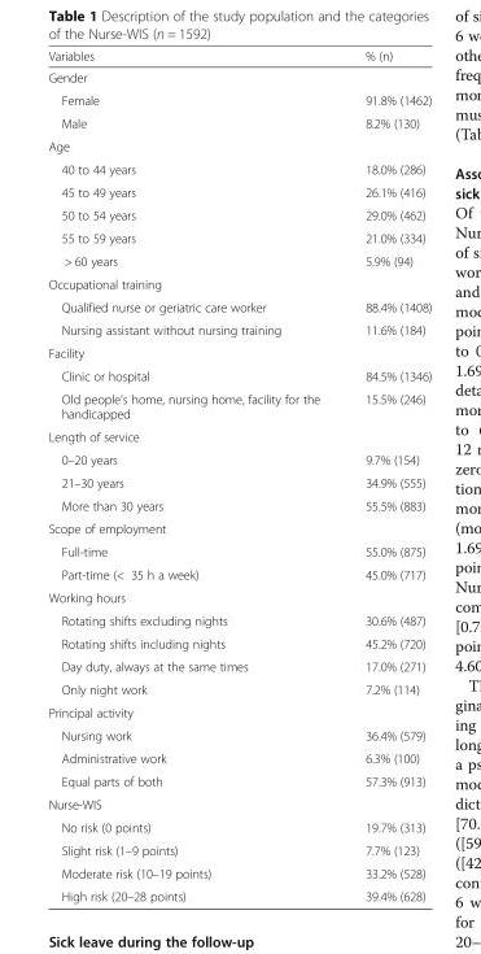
<table><thead><tr><td>Variables</td><td>% (n)</td></tr></thead><tbody><tr><td colspan="2">Gender</td></tr><tr><td>Female</td><td>91.8% (1462)</td></tr><tr><td>Male</td><td>8.2% (130)</td></tr><tr><td colspan="2">Age</td></tr><tr><td>40 to 44 years</td><td>18.0% (286)</td></tr><tr><td>45 to 49 years</td><td>26.1% (416)</td></tr><tr><td>50 to 54 years</td><td>29.0% (462)</td></tr><tr><td>55 to 59 years</td><td>21.0% (334)</td></tr><tr><td>&gt; 60 years</td><td>5.9% (94)</td></tr><tr><td colspan="2">Occupational training</td></tr><tr><td>Qualified nurse or geriatric care worker</td><td>88.4% (1408)</td></tr><tr><td>Nursing assistant without nursing training</td><td>11.6% (184)</td></tr><tr><td colspan="2">Facility</td></tr><tr><td>Clinic or hospital</td><td>84.5% (1346)</td></tr><tr><td>Old people’s home, nursing home, facility for the handicapped</td><td>15.5% (246)</td></tr><tr><td colspan="2">Length of service</td></tr><tr><td>0–20 years</td><td>9.7% (154)</td></tr><tr><td>21–30 years</td><td>34.9% (555)</td></tr><tr><td>More than 30 years</td><td>55.5% (883)</td></tr><tr><td colspan="2">Scope of employment</td></tr><tr><td>Full-time</td><td>55.0% (875)</td></tr><tr><td>Part-time (&lt; 35 h a week)</td><td>45.0% (717)</td></tr><tr><td colspan="2">Working hours</td></tr><tr><td>Rotating shifts excluding nights</td><td>30.6% (487)</td></tr><tr><td>Rotating shifts including nights</td><td>45.2% (720)</td></tr><tr><td>Day duty, always at the same times</td><td>17.0% (271)</td></tr><tr><td>Only night work</td><td>7.2% (114)</td></tr><tr><td colspan="2">Principal activity</td></tr><tr><td>Nursing work</td><td>36.4% (579)</td></tr><tr><td>Administrative work</td><td>6.3% (100)</td></tr><tr><td>Equal parts of both</td><td>57.3% (913)</td></tr><tr><td colspan="2">Nurse-WIS</td></tr><tr><td>No risk (0 points)</td><td>19.7% (313)</td></tr><tr><td>Slight risk (1–9 points)</td><td>7.7% (123)</td></tr><tr><td>Moderate risk (10–19 points)</td><td>33.2% (528)</td></tr><tr><td>High risk (20–28 points)</td><td>39.4% (628)</td></tr></tbody></table>